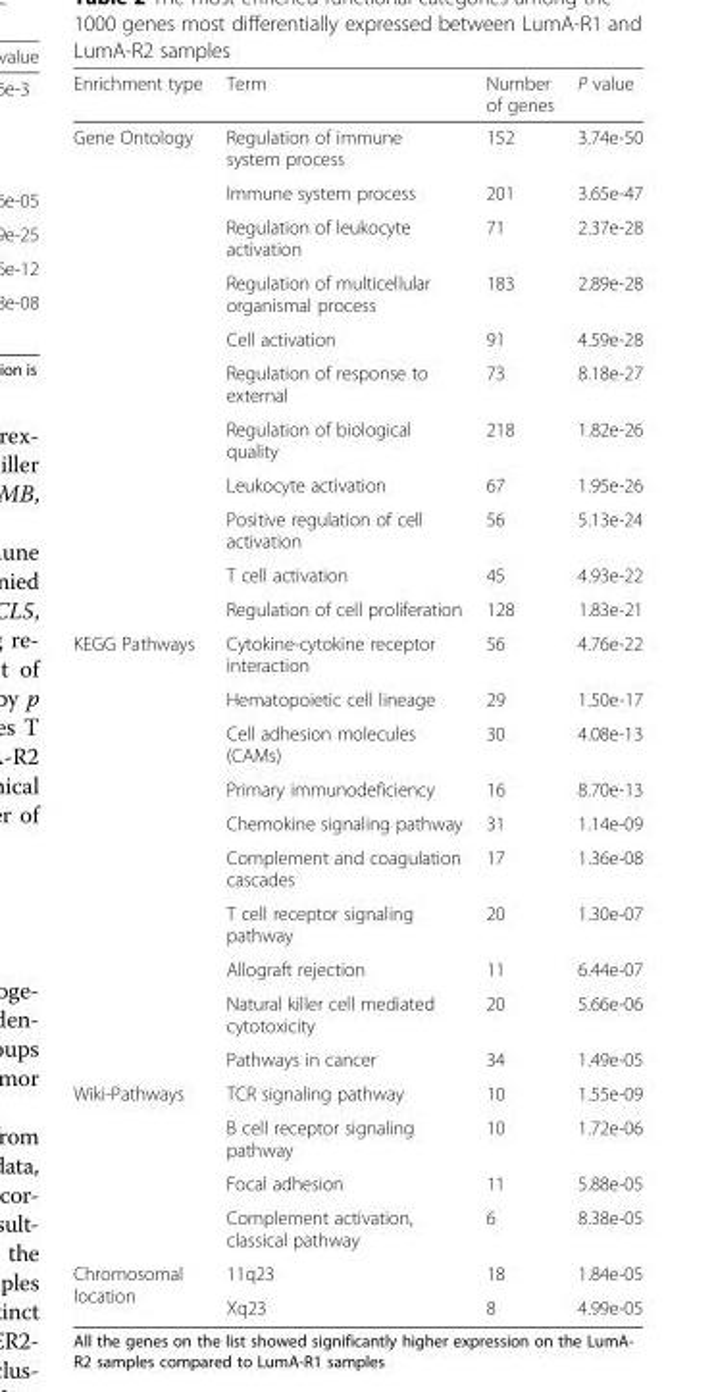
<table><thead><tr><td>Enrichment type</td><td>Term</td><td>Number of genes</td><td>P value</td></tr></thead><tbody><tr><td rowspan="11">Gene Ontology</td><td>Regulation of immune system process</td><td>152</td><td>3.74e-50</td></tr><tr><td>Immune system process</td><td>201</td><td>3.65e-47</td></tr><tr><td>Regulation of leukocyte activation</td><td>71</td><td>2.37e-28</td></tr><tr><td>Regulation of multicellular organismal process</td><td>183</td><td>2.89e-28</td></tr><tr><td>Cell activation</td><td>91</td><td>4.59e-28</td></tr><tr><td>Regulation of response to external</td><td>73</td><td>8.18e-27</td></tr><tr><td>Regulation of biological quality</td><td>218</td><td>1.82e-26</td></tr><tr><td>Leukocyte activation</td><td>67</td><td>1.95e-26</td></tr><tr><td>Positive regulation of cell activation</td><td>56</td><td>5.13e-24</td></tr><tr><td>T cell activation</td><td>45</td><td>4.93e-22</td></tr><tr><td>Regulation of cell proliferation</td><td>128</td><td>1.83e-21</td></tr><tr><td rowspan="10">KEGG Pathways</td><td>Cytokine-cytokine receptor interaction</td><td>56</td><td>4.76e-22</td></tr><tr><td>Hematopoietic cell lineage</td><td>29</td><td>1.50e-17</td></tr><tr><td>Cell adhesion molecules (CAMs)</td><td>30</td><td>4.08e-13</td></tr><tr><td>Primary immunodeficiency</td><td>16</td><td>8.70e-13</td></tr><tr><td>Chemokine signaling pathway</td><td>31</td><td>1.14e-09</td></tr><tr><td>Complement and coagulation cascades</td><td>17</td><td>1.36e-08</td></tr><tr><td>T cell receptor signaling pathway</td><td>20</td><td>1.30e-07</td></tr><tr><td>Allograft rejection</td><td>11</td><td>6.44e-07</td></tr><tr><td>Natural killer cell mediated cytotoxicity</td><td>20</td><td>5.66e-06</td></tr><tr><td>Pathways in cancer</td><td>34</td><td>1.49e-05</td></tr><tr><td rowspan="4">Wiki-Pathways</td><td>TCR signaling pathway</td><td>10</td><td>1.55e-09</td></tr><tr><td>B cell receptor signaling pathway</td><td>10</td><td>1.72e-06</td></tr><tr><td>Focal adhesion</td><td>11</td><td>5.88e-05</td></tr><tr><td>Complement activation, classical pathway</td><td>6</td><td>8.38e-05</td></tr><tr><td rowspan="2">Chromosomal location</td><td>11q23</td><td>18</td><td>1.84e-05</td></tr><tr><td>Xq23</td><td>8</td><td>4.99e-05</td></tr></tbody></table>